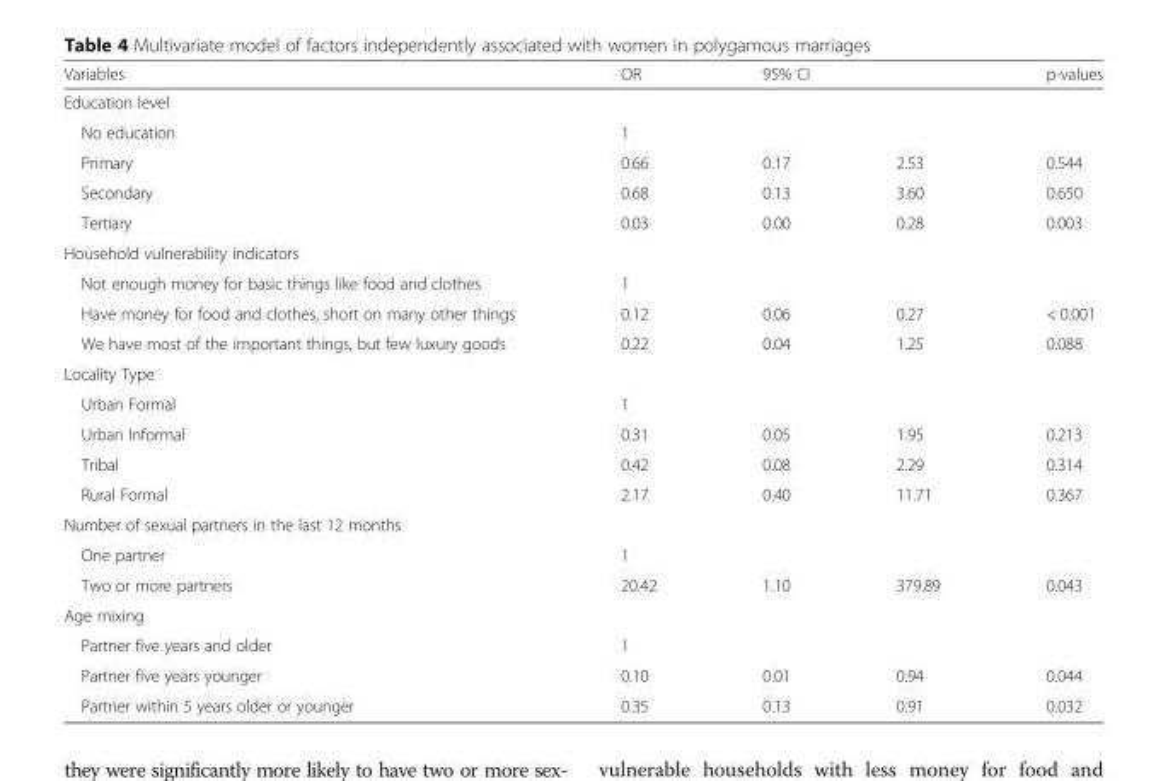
<table><thead><tr><td>Variables</td><td>OR</td><td colspan="2">95% CI</td><td>p-values</td></tr><tr><td colspan="5">Education level</td></tr><tr><td>No education</td><td>1</td><td></td><td></td><td></td></tr></thead><tbody><tr><td>Primary</td><td>0.66</td><td>0.17</td><td>2.53</td><td>0.544</td></tr><tr><td>Secondary</td><td>0.68</td><td>0.13</td><td>3.60</td><td>0.650</td></tr><tr><td>Tertiary</td><td>0.03</td><td>0.00</td><td>0.28</td><td>0.003</td></tr><tr><td colspan="5">Household vulnerability indicators</td></tr><tr><td>Not enough money for basic things like food and clothes</td><td>1</td><td></td><td></td><td></td></tr><tr><td>Have money for food and clothes, short on many other things</td><td>0.12</td><td>0.06</td><td>0.27</td><td>&lt; 0.001</td></tr><tr><td>We have most of the important things, but few luxury goods</td><td>0.22</td><td>0.04</td><td>1.25</td><td>0.088</td></tr><tr><td colspan="5">Locality Type</td></tr><tr><td>Urban Formal</td><td>1</td><td></td><td></td><td></td></tr><tr><td>Urban Informal</td><td>0.31</td><td>0.05</td><td>1.95</td><td>0.213</td></tr><tr><td>Tribal</td><td>0.42</td><td>0.08</td><td>2.29</td><td>0.314</td></tr><tr><td>Rural Formal</td><td>2.17</td><td>0.40</td><td>11.71</td><td>0.367</td></tr><tr><td colspan="5">Number of sexual partners in the last 12 months</td></tr><tr><td>One partner</td><td>1</td><td></td><td></td><td></td></tr><tr><td>Two or more partners</td><td>20.42</td><td>1.10</td><td>379.89</td><td>0.043</td></tr><tr><td colspan="5">Age mixing</td></tr><tr><td>Partner five years and older</td><td>1</td><td></td><td></td><td></td></tr><tr><td>Partner five years younger</td><td>0.10</td><td>0.01</td><td>0.94</td><td>0.044</td></tr><tr><td>Partner within 5 years older or younger</td><td>0.35</td><td>0.13</td><td>0.91</td><td>0.032</td></tr></tbody></table>